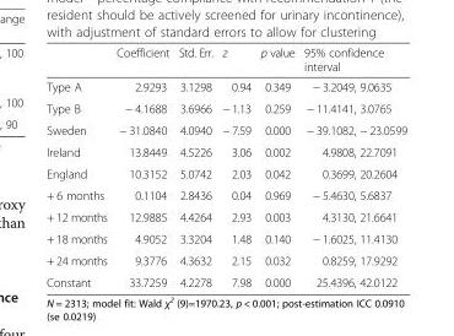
<table><thead><tr><td></td><td>Coefficient</td><td>Std. Err.</td><td>z</td><td>p value</td><td>95% confidence interval</td></tr></thead><tbody><tr><td>Type A</td><td>2.9293</td><td>3.1298</td><td>0.94</td><td>0.349</td><td>− 3.2049, 9.0635</td></tr><tr><td>Type B</td><td>− 4.1688</td><td>3.6966</td><td>− 1.13</td><td>0.259</td><td>− 11.4141, 3.0765</td></tr><tr><td>Sweden</td><td>− 31.0840</td><td>4.0940</td><td>− 7.59</td><td>0.000</td><td>− 39.1082, − 23.0599</td></tr><tr><td>Ireland</td><td>13.8449</td><td>4.5226</td><td>3.06</td><td>0.002</td><td>4.9808, 22.7091</td></tr><tr><td>England</td><td>10.3152</td><td>5.0742</td><td>2.03</td><td>0.042</td><td>0.3699, 20.2604</td></tr><tr><td>+ 6 months</td><td>0.1104</td><td>2.8436</td><td>0.04</td><td>0.969</td><td>− 5.4630, 5.6837</td></tr><tr><td>+ 12 months</td><td>12.9885</td><td>4.4264</td><td>2.93</td><td>0.003</td><td>4.3130, 21.6641</td></tr><tr><td>+ 18 months</td><td>4.9052</td><td>3.3204</td><td>1.48</td><td>0.140</td><td>− 1.6025, 11.4130</td></tr><tr><td>+ 24 months</td><td>9.3776</td><td>4.3632</td><td>2.15</td><td>0.032</td><td>0.8259, 17.9292</td></tr><tr><td>Constant</td><td>33.7259</td><td>4.2278</td><td>7.98</td><td>0.000</td><td>25.4396, 42.0122</td></tr></tbody></table>